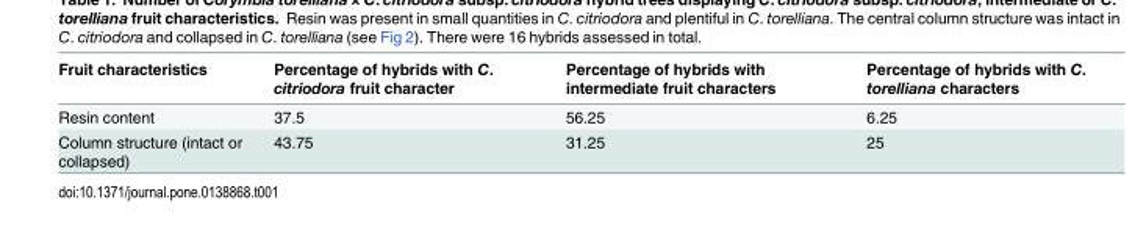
<table><thead><tr><td>Fruit characteristics</td><td>Percentage of hybrids with C. citriodora fruit character</td><td>Percentage of hybrids with intermediate fruit characters</td><td>Percentage of hybrids with C. torelliana characters</td></tr></thead><tbody><tr><td>Resin content</td><td>37.5</td><td>56.25</td><td>6.25</td></tr><tr><td>Column structure (intact or collapsed)</td><td>43.75</td><td>31.25</td><td>25</td></tr></tbody></table>